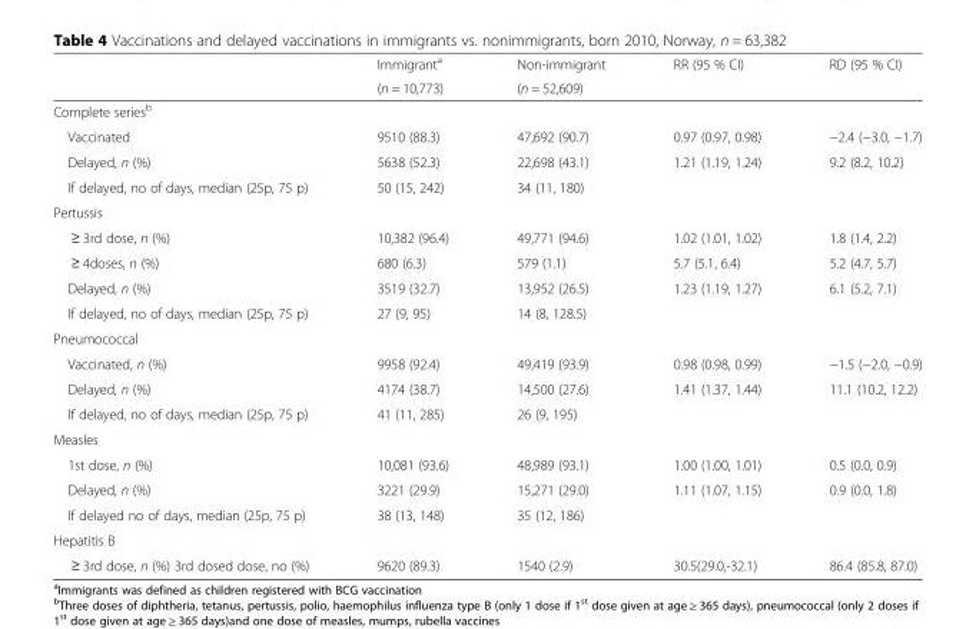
<table><thead><tr><td rowspan="2"></td><td rowspan="2">Immigrant<sup>a</sup> (n = 10,773)</td><td rowspan="2">Non-immigrant (n = 52,609)</td><td rowspan="2">RR (95 % CI)</td><td rowspan="2">RD (95 % CI)</td></tr><tr></tr></thead><tbody><tr><td colspan="5">Complete series<sup>b</sup></td></tr><tr><td>Vaccinated</td><td>9510 (88.3)</td><td>47,692 (90.7)</td><td>0.97 (0.97, 0.98)</td><td>−2.4 (−3.0, −1.7)</td></tr><tr><td>Delayed, n (%)</td><td>5638 (52.3)</td><td>22,698 (43.1)</td><td>1.21 (1.19, 1.24)</td><td>9.2 (8.2, 10.2)</td></tr><tr><td>If delayed, no of days, median (25p, 75 p)</td><td>50 (15, 242)</td><td>34 (11, 180)</td><td></td><td></td></tr><tr><td colspan="5">Pertussis</td></tr><tr><td>≥ 3rd dose, n (%)</td><td>10,382 (96.4)</td><td>49,771 (94.6)</td><td>1.02 (1.01, 1.02)</td><td>1.8 (1.4, 2.2)</td></tr><tr><td>≥ 4doses, n (%)</td><td>680 (6.3)</td><td>579 (1.1)</td><td>5.7 (5.1, 6.4)</td><td>5.2 (4.7, 5.7)</td></tr><tr><td>Delayed, n (%)</td><td>3519 (32.7)</td><td>13,952 (26.5)</td><td>1.23 (1.19, 1.27)</td><td>6.1 (5.2, 7.1)</td></tr><tr><td>If delayed, no of days, median (25p, 75 p)</td><td>27 (9, 95)</td><td>14 (8, 128.5)</td><td></td><td></td></tr><tr><td colspan="5">Pneumococcal</td></tr><tr><td>Vaccinated, n (%)</td><td>9958 (92.4)</td><td>49,419 (93.9)</td><td>0.98 (0.98, 0.99)</td><td>−1.5 (−2.0, −0.9)</td></tr><tr><td>Delayed, n (%)</td><td>4174 (38.7)</td><td>14,500 (27.6)</td><td>1.41 (1.37, 1.44)</td><td>11.1 (10.2, 12.2)</td></tr><tr><td>If delayed, no of days, median (25p, 75 p)</td><td>41 (11, 285)</td><td>26 (9, 195)</td><td></td><td></td></tr><tr><td colspan="5">Measles</td></tr><tr><td>1st dose, n (%)</td><td>10,081 (93.6)</td><td>48,989 (93.1)</td><td>1.00 (1.00, 1.01)</td><td>0.5 (0.0, 0.9)</td></tr><tr><td>Delayed, n (%)</td><td>3221 (29.9)</td><td>15,271 (29.0)</td><td>1.11 (1.07, 1.15)</td><td>0.9 (0.0, 1.8)</td></tr><tr><td>If delayed no of days, median (25p, 75 p)</td><td>38 (13, 148)</td><td>35 (12, 186)</td><td></td><td></td></tr><tr><td colspan="5">Hepatitis B</td></tr><tr><td>≥ 3rd dose, n (%) 3rd dosed dose, no (%)</td><td>9620 (89.3)</td><td>1540 (2.9)</td><td>30.5(29.0,-32.1)</td><td>86.4 (85.8, 87.0)</td></tr></tbody></table>